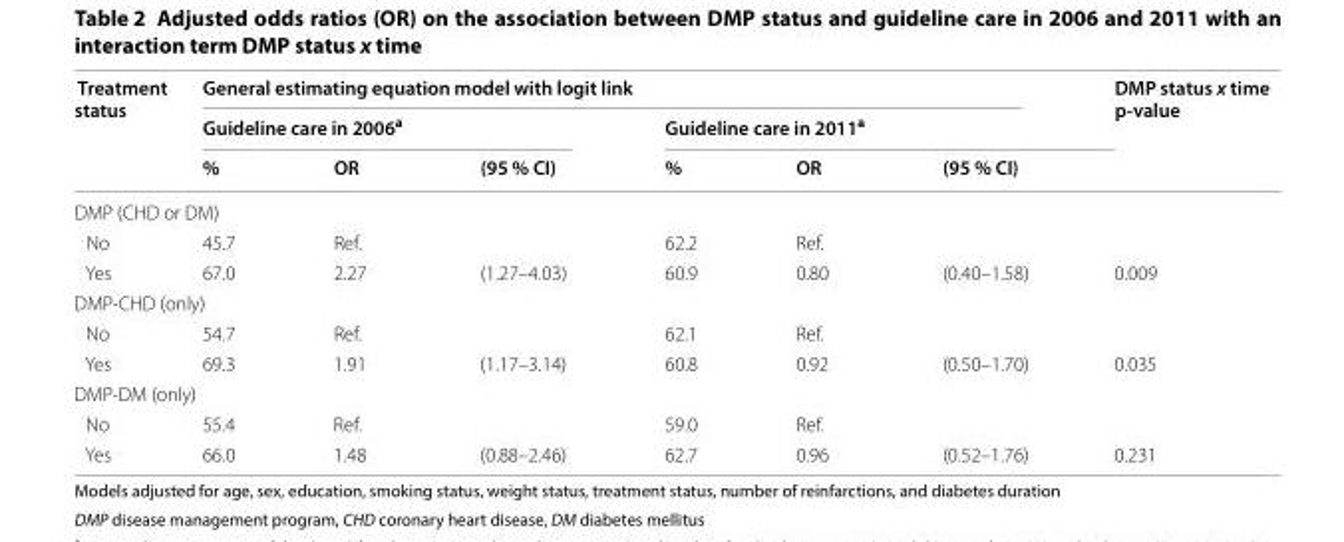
<table><thead><tr><td rowspan="3">Treatment status</td><td colspan="6">General estimating equation model with logit link</td><td rowspan="3">DMP status x time p‑value</td></tr><tr><td colspan="3">Guideline care in 2006<sup>a</sup></td><td colspan="3">Guideline care in 2011<sup>a</sup></td></tr><tr><td>%</td><td>OR</td><td>(95 % CI)</td><td>%</td><td>OR</td><td>(95 % CI)</td></tr></thead><tbody><tr><td colspan="8">DMP (CHD or DM)</td></tr><tr><td>No</td><td>45.7</td><td>Ref.</td><td></td><td>62.2</td><td>Ref.</td><td></td><td></td></tr><tr><td>Yes</td><td>67.0</td><td>2.27</td><td>(1.27–4.03)</td><td>60.9</td><td>0.80</td><td>(0.40–1.58)</td><td>0.009</td></tr><tr><td colspan="8">DMP-CHD (only)</td></tr><tr><td>No</td><td>54.7</td><td>Ref.</td><td></td><td>62.1</td><td>Ref.</td><td></td><td></td></tr><tr><td>Yes</td><td>69.3</td><td>1.91</td><td>(1.17–3.14)</td><td>60.8</td><td>0.92</td><td>(0.50–1.70)</td><td>0.035</td></tr><tr><td colspan="8">DMP-DM (only)</td></tr><tr><td>No</td><td>55.4</td><td>Ref.</td><td></td><td>59.0</td><td>Ref.</td><td></td><td></td></tr><tr><td>Yes</td><td>66.0</td><td>1.48</td><td>(0.88–2.46)</td><td>62.7</td><td>0.96</td><td>(0.52–1.76)</td><td>0.231</td></tr></tbody></table>